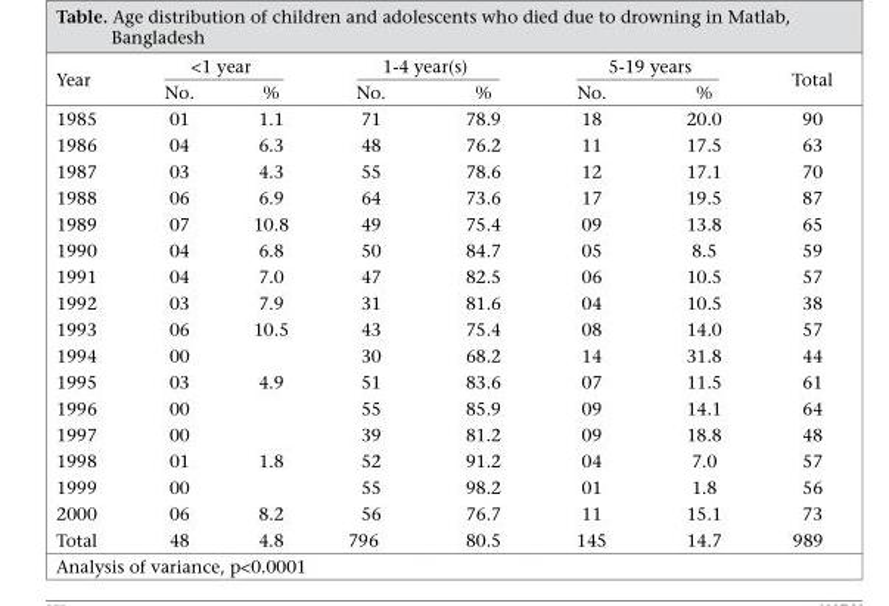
<table><thead><tr><td rowspan="2">Year</td><td colspan="2">&lt;1 year</td><td colspan="2">1-4 year(s)</td><td colspan="2">5-19 years</td><td rowspan="2">Total</td></tr><tr><td>No.</td><td>%</td><td>No.</td><td>%</td><td>No.</td><td>%</td></tr></thead><tbody><tr><td>1985</td><td>01</td><td>1.1</td><td>71</td><td>78.9</td><td>18</td><td>20.0</td><td>90</td></tr><tr><td>1986</td><td>04</td><td>6.3</td><td>48</td><td>76.2</td><td>11</td><td>17.5</td><td>63</td></tr><tr><td>1987</td><td>03</td><td>4.3</td><td>55</td><td>78.6</td><td>12</td><td>17.1</td><td>70</td></tr><tr><td>1988</td><td>06</td><td>6.9</td><td>64</td><td>73.6</td><td>17</td><td>19.5</td><td>87</td></tr><tr><td>1989</td><td>07</td><td>10.8</td><td>49</td><td>75.4</td><td>09</td><td>13.8</td><td>65</td></tr><tr><td>1990</td><td>04</td><td>6.8</td><td>50</td><td>84.7</td><td>05</td><td>8.5</td><td>59</td></tr><tr><td>1991</td><td>04</td><td>7.0</td><td>47</td><td>82.5</td><td>06</td><td>10.5</td><td>57</td></tr><tr><td>1992</td><td>03</td><td>7.9</td><td>31</td><td>81.6</td><td>04</td><td>10.5</td><td>38</td></tr><tr><td>1993</td><td>06</td><td>10.5</td><td>43</td><td>75.4</td><td>08</td><td>14.0</td><td>57</td></tr><tr><td>1994</td><td>00</td><td></td><td>30</td><td>68.2</td><td>14</td><td>31.8</td><td>44</td></tr><tr><td>1995</td><td>03</td><td>4.9</td><td>51</td><td>83.6</td><td>07</td><td>11.5</td><td>61</td></tr><tr><td>1996</td><td>00</td><td></td><td>55</td><td>85.9</td><td>09</td><td>14.1</td><td>64</td></tr><tr><td>1997</td><td>00</td><td></td><td>39</td><td>81.2</td><td>09</td><td>18.8</td><td>48</td></tr><tr><td>1998</td><td>01</td><td>1.8</td><td>52</td><td>91.2</td><td>04</td><td>7.0</td><td>57</td></tr><tr><td>1999</td><td>00</td><td></td><td>55</td><td>98.2</td><td>01</td><td>1.8</td><td>56</td></tr><tr><td>2000</td><td>06</td><td>8.2</td><td>56</td><td>76.7</td><td>11</td><td>15.1</td><td>73</td></tr><tr><td>Total</td><td>48</td><td>4.8</td><td>796</td><td>80.5</td><td>145</td><td>14.7</td><td>989</td></tr></tbody></table>